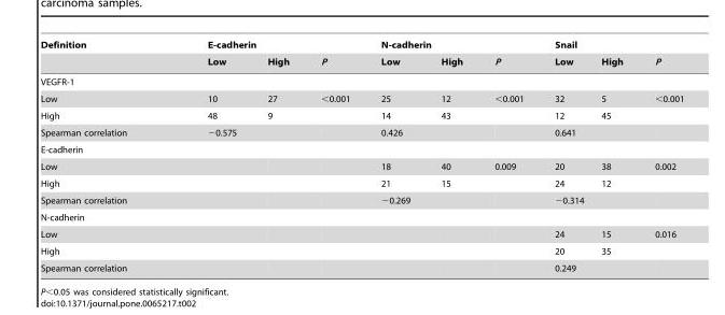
<table><thead><tr><td rowspan="2">Definition</td><td colspan="3">E-cadherin</td><td colspan="3">N-cadherin</td><td colspan="3">Snail</td></tr><tr><td>Low</td><td>High</td><td>P</td><td>Low</td><td>High</td><td>P</td><td>Low</td><td>High</td><td>P</td></tr></thead><tbody><tr><td colspan="10">VEGFR-1</td></tr><tr><td>Low</td><td>10</td><td>27</td><td>&lt;0.001</td><td>25</td><td>12</td><td>&lt;0.001</td><td>32</td><td>5</td><td>&lt;0.001</td></tr><tr><td>High</td><td>48</td><td>9</td><td></td><td>14</td><td>43</td><td></td><td>12</td><td>45</td><td></td></tr><tr><td>Spearman correlation</td><td colspan="2">−0.575</td><td></td><td colspan="2">0.426</td><td></td><td colspan="2">0.641</td><td></td></tr><tr><td colspan="10">E-cadherin</td></tr><tr><td>Low</td><td></td><td></td><td></td><td>18</td><td>40</td><td>0.009</td><td>20</td><td>38</td><td>0.002</td></tr><tr><td>High</td><td></td><td></td><td></td><td>21</td><td>15</td><td></td><td>24</td><td>12</td><td></td></tr><tr><td>Spearman correlation</td><td></td><td></td><td></td><td colspan="2">−0.269</td><td></td><td colspan="2">−0.314</td><td></td></tr><tr><td colspan="10">N-cadherin</td></tr><tr><td>Low</td><td></td><td></td><td></td><td></td><td></td><td></td><td>24</td><td>15</td><td>0.016</td></tr><tr><td>High</td><td></td><td></td><td></td><td></td><td></td><td></td><td>20</td><td>35</td><td></td></tr><tr><td>Spearman correlation</td><td></td><td></td><td></td><td></td><td></td><td></td><td colspan="2">0.249</td><td></td></tr></tbody></table>